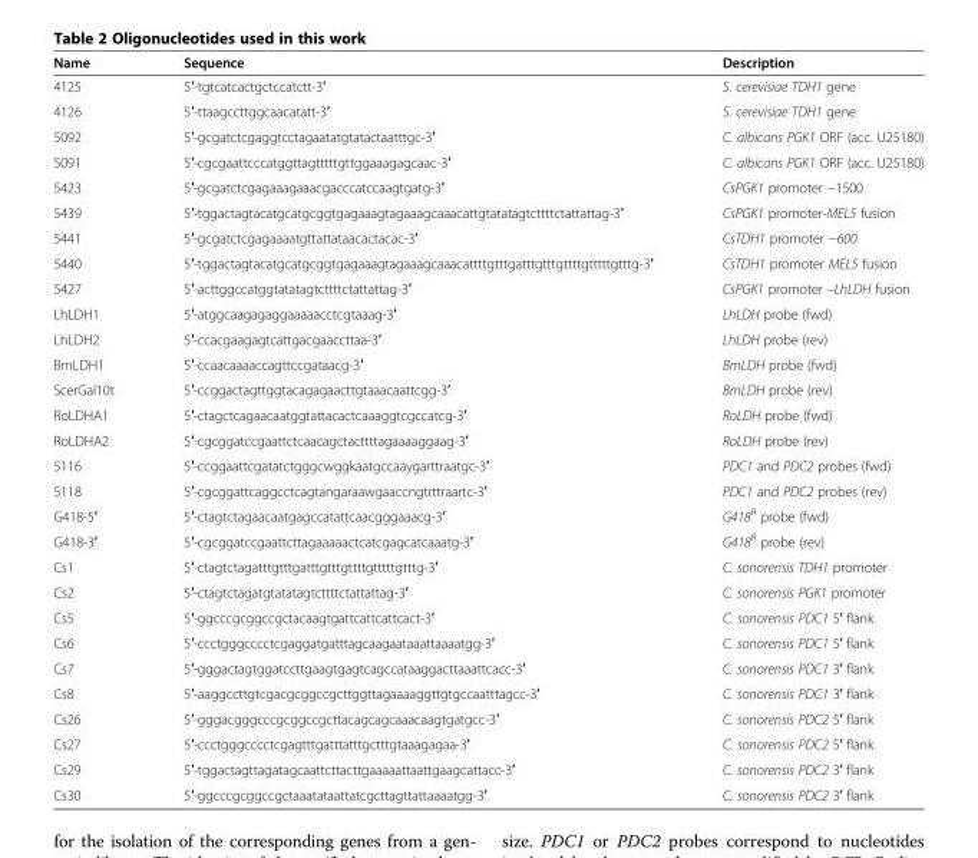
<table><thead><tr><td>Name</td><td>Sequence</td><td>Description</td></tr></thead><tbody><tr><td>4125</td><td>5′-tgtcatcactgctccatctt-3′</td><td>S. cerevisiae TDH1 gene</td></tr><tr><td>4126</td><td>5′-ttaagccttggcaacatatt-3′</td><td>S. cerevisiae TDH1 gene</td></tr><tr><td>5092</td><td>5′-gcgatctcgaggtcctagaatatgtatactaatttgc-3′</td><td>C. albicans PGK1 ORF (acc. U25180)</td></tr><tr><td>5091</td><td>5′-cgcgaattcccatggttagtttttgttggaaagagcaac-3′</td><td>C. albicans PGK1 ORF (acc. U25180)</td></tr><tr><td>5423</td><td>5′-gcgatctcgagaaagaaacgacccatccaagtgatg-3′</td><td>CsPGK1 promoter −1500</td></tr><tr><td>5439</td><td>5′-tggactagtacatgcatgcggtgagaaagtagaaagcaaacattgtatatagtcttttctattattag-3′</td><td>CsPGK1 promoter-MEL5 fusion</td></tr><tr><td>5441</td><td>5′-gcgatctcgagaaaatgttattataacactacac-3′</td><td>CsTDH1 promoter −600</td></tr><tr><td>5440</td><td>5′-tggactagtacatgcatgcggtgagaaagtagaaagcaaacattttgtttgatttgtttgttttgtttttgtttg-3′</td><td>CsTDH1 promoter MEL5 fusion</td></tr><tr><td>5427</td><td>5′-acttggccatggtatatagtcttttctattattag-3′</td><td>CsPGK1 promoter –LhLDH fusion</td></tr><tr><td>LhLDH1</td><td>5′-atggcaagagaggaaaaacctcgtaaag-3′</td><td>LhLDH probe (fwd)</td></tr><tr><td>LhLDH2</td><td>5′-ccacgaagagtcattgacgaaccttaa-3′</td><td>LhLDH probe (rev)</td></tr><tr><td>BmLDH1</td><td>5′-ccaacaaaaccagttccgataacg-3′</td><td>BmLDH probe (fwd)</td></tr><tr><td>ScerGal10t</td><td>5′-ccggactagttggtacagagaacttgtaaacaattcgg-3′</td><td>BmLDH probe (rev)</td></tr><tr><td>RoLDHA1</td><td>5′-ctagctcagaacaatggtattacactcaaaggtcgccatcg-3′</td><td>RoLDH probe (fwd)</td></tr><tr><td>RoLDHA2</td><td>5′-cgcggatccgaattctcaacagctacttttagaaaaggaag-3′</td><td>RoLDH probe (rev)</td></tr><tr><td>5116</td><td>5′-ccggaattcgatatctgggcwggkaatgccaaygarttraatgc-3′</td><td>PDC1 and PDC2 probes (fwd)</td></tr><tr><td>5118</td><td>5′-cgcggattcaggcctcagtangaraawgaaccngtrttraartc-3′</td><td>PDC1 and PDC2 probes (rev)</td></tr><tr><td>G418-5′</td><td>5′-ctagtctagaacaatgagccatattcaacgggaaacg-3′</td><td>G418<sup>R</sup> probe (fwd)</td></tr><tr><td>G418-3′</td><td>5′-cgcggatccgaattcttagaaaaactcatcgagcatcaaatg-3′</td><td>G418<sup>R</sup> probe (rev)</td></tr><tr><td>Cs1</td><td>5′-ctagtctagatttgtttgatttgtttgttttgtttttgtttg-3′</td><td>C. sonorensis TDH1 promoter</td></tr><tr><td>Cs2</td><td>5′-ctagtctagatgtatatagtcttttctattattag-3′</td><td>C. sonorensis PGK1 promoter</td></tr><tr><td>Cs5</td><td>5′-ggcccgcggccgctacaagtgattcattcattcact-3′</td><td>C. sonorensis PDC1 5′ flank</td></tr><tr><td>Cs6</td><td>5′-ccctgggcccctcgaggatgatttagcaagaataaattaaaatgg-3′</td><td>C. sonorensis PDC1 5′ flank</td></tr><tr><td>Cs7</td><td>5′-gggactagtggatccttgaagtgagtcagccataaggacttaaattcacc-3′</td><td>C. sonorensis PDC1 3′ flank</td></tr><tr><td>Cs8</td><td>5′-aaggccttgtcgacgcggccgcttggttagaaaaggttgtgccaatttagcc-3′</td><td>C. sonorensis PDC1 3′ flank</td></tr><tr><td>Cs26</td><td>5′-gggacgggcccgcggccgcttacagcagcaaacaagtgatgcc-3′</td><td>C. sonorensis PDC2 5′ flank</td></tr><tr><td>Cs27</td><td>5′-ccctgggcccctcgagtttgatttatttgctttgtaaagagaa-3′</td><td>C. sonorensis PDC2 5′ flank</td></tr><tr><td>Cs29</td><td>5′-tggactagttagatagcaattcttacttgaaaaattaattgaagcattacc-3′</td><td>C. sonorensis PDC2 3′ flank</td></tr><tr><td>Cs30</td><td>5′-ggcccgcggccgctaaatataattatcgcttagttattaaaatgg-3′</td><td>C. sonorensis PDC2 3′ flank</td></tr></tbody></table>